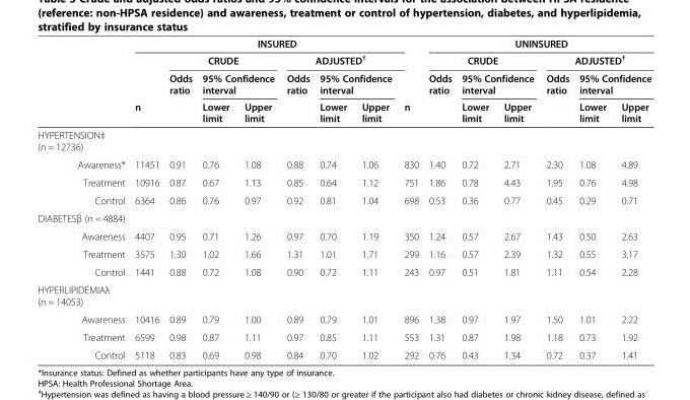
<table><thead><tr><td rowspan="4"></td><td colspan="8">INSURED</td><td colspan="6">UNINSURED</td></tr><tr><td rowspan="3">n</td><td colspan="3">CRUDE</td><td colspan="3">ADJUSTED<sup>†</sup></td><td rowspan="3">n</td><td colspan="3">CRUDE</td><td colspan="3">ADJUSTED<sup>†</sup></td></tr><tr><td rowspan="2">Odds ratio</td><td colspan="2">95% Confidence interval</td><td rowspan="2">Odds ratio</td><td colspan="2">95% Confidence interval</td><td rowspan="2">Odds ratio</td><td colspan="2">95% Confidence interval</td><td rowspan="2">Odds ratio</td><td colspan="2">95% Confidence interval</td></tr><tr><td>Lower limit</td><td>Upper limit</td><td>Lower limit</td><td>Upper limit</td><td>Lower limit</td><td>Upper limit</td><td>Lower limit</td><td>Upper limit</td></tr></thead><tbody><tr><td colspan="15">HYPERTENSION‡ (n = 12736)</td></tr><tr><td>Awareness*</td><td>11451</td><td>0.91</td><td>0.76</td><td>1.08</td><td>0.88</td><td>0.74</td><td>1.06</td><td>830</td><td>1.40</td><td>0.72</td><td>2.71</td><td>2.30</td><td>1.08</td><td>4.89</td></tr><tr><td>Treatment</td><td>10916</td><td>0.87</td><td>0.67</td><td>1.13</td><td>0.85</td><td>0.64</td><td>1.12</td><td>751</td><td>1.86</td><td>0.78</td><td>4.43</td><td>1.95</td><td>0.76</td><td>4.98</td></tr><tr><td>Control</td><td>6364</td><td>0.86</td><td>0.76</td><td>0.97</td><td>0.92</td><td>0.81</td><td>1.04</td><td>698</td><td>0.53</td><td>0.36</td><td>0.77</td><td>0.45</td><td>0.29</td><td>0.71</td></tr><tr><td colspan="15">DIABETESβ (n = 4884)</td></tr><tr><td>Awareness</td><td>4407</td><td>0.95</td><td>0.71</td><td>1.26</td><td>0.97</td><td>0.70</td><td>1.19</td><td>350</td><td>1.24</td><td>0.57</td><td>2.67</td><td>1.43</td><td>0.50</td><td>2.63</td></tr><tr><td>Treatment</td><td>3575</td><td>1.30</td><td>1.02</td><td>1.66</td><td>1.31</td><td>1.01</td><td>1.71</td><td>299</td><td>1.16</td><td>0.57</td><td>2.39</td><td>1.32</td><td>0.55</td><td>3.17</td></tr><tr><td>Control</td><td>1441</td><td>0.88</td><td>0.72</td><td>1.08</td><td>0.90</td><td>0.72</td><td>1.11</td><td>243</td><td>0.97</td><td>0.51</td><td>1.81</td><td>1.11</td><td>0.54</td><td>2.28</td></tr><tr><td colspan="15">HYPERLIPIDEMIAλ (n = 14053)</td></tr><tr><td>Awareness</td><td>10416</td><td>0.89</td><td>0.79</td><td>1.00</td><td>0.89</td><td>0.79</td><td>1.01</td><td>896</td><td>1.38</td><td>0.97</td><td>1.97</td><td>1.50</td><td>1.01</td><td>2.22</td></tr><tr><td>Treatment</td><td>6599</td><td>0.98</td><td>0.87</td><td>1.11</td><td>0.97</td><td>0.85</td><td>1.11</td><td>553</td><td>1.31</td><td>0.87</td><td>1.98</td><td>1.18</td><td>0.73</td><td>1.92</td></tr><tr><td>Control</td><td>5118</td><td>0.83</td><td>0.69</td><td>0.98</td><td>0.84</td><td>0.70</td><td>1.02</td><td>292</td><td>0.76</td><td>0.43</td><td>1.34</td><td>0.72</td><td>0.37</td><td>1.41</td></tr></tbody></table>